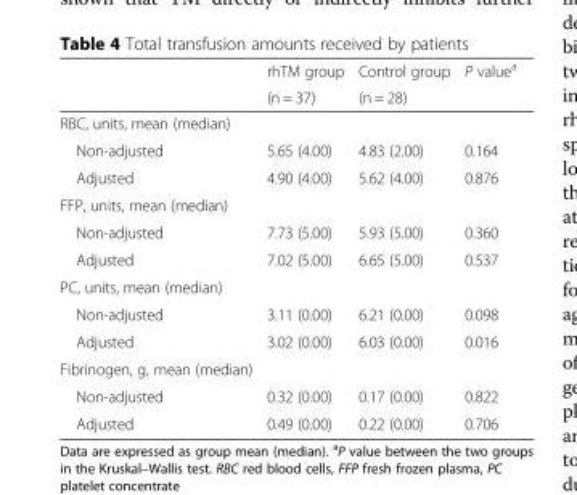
<table><thead><tr><td rowspan="2"></td><td rowspan="2">rhTM group (n = 37)</td><td rowspan="2">Control group (n = 28)</td><td rowspan="2">P value<sup>a</sup></td></tr><tr></tr></thead><tbody><tr><td colspan="4">RBC, units, mean (median)</td></tr><tr><td>Non-adjusted</td><td>5.65 (4.00)</td><td>4.83 (2.00)</td><td>0.164</td></tr><tr><td>Adjusted</td><td>4.90 (4.00)</td><td>5.62 (4.00)</td><td>0.876</td></tr><tr><td colspan="4">FFP, units, mean (median)</td></tr><tr><td>Non-adjusted</td><td>7.73 (5.00)</td><td>5.93 (5.00)</td><td>0.360</td></tr><tr><td>Adjusted</td><td>7.02 (5.00)</td><td>6.65 (5.00)</td><td>0.537</td></tr><tr><td colspan="4">PC, units, mean (median)</td></tr><tr><td>Non-adjusted</td><td>3.11 (0.00)</td><td>6.21 (0.00)</td><td>0.098</td></tr><tr><td>Adjusted</td><td>3.02 (0.00)</td><td>6.03 (0.00)</td><td>0.016</td></tr><tr><td colspan="4">Fibrinogen, g, mean (median)</td></tr><tr><td>Non-adjusted</td><td>0.32 (0.00)</td><td>0.17 (0.00)</td><td>0.822</td></tr><tr><td>Adjusted</td><td>0.49 (0.00)</td><td>0.22 (0.00)</td><td>0.706</td></tr></tbody></table>